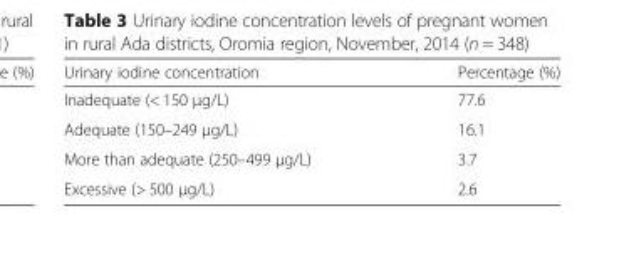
<table><thead><tr><td>Urinary iodine concentration</td><td>Percentage (%)</td></tr></thead><tbody><tr><td>Inadequate (&lt; 150 μg/L)</td><td>77.6</td></tr><tr><td>Adequate (150–249 μg/L)</td><td>16.1</td></tr><tr><td>More than adequate (250–499 μg/L)</td><td>3.7</td></tr><tr><td>Excessive (&gt; 500 μg/L)</td><td>2.6</td></tr></tbody></table>